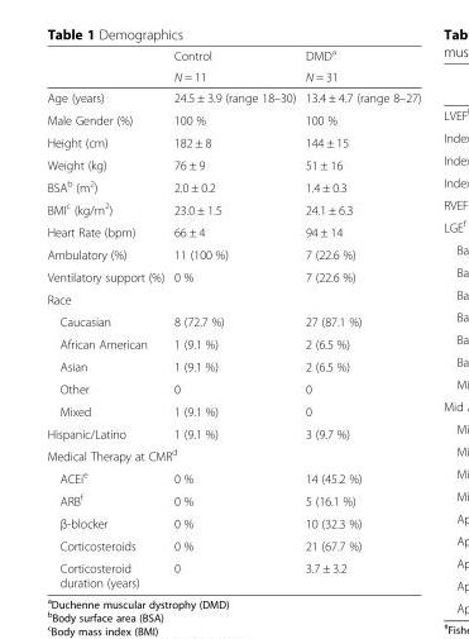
<table><thead><tr><td rowspan="2"></td><td rowspan="2">Control N = 11</td><td rowspan="2">DMD<sup>a</sup> N = 31</td></tr><tr></tr></thead><tbody><tr><td>Age (years)</td><td>24.5 ± 3.9 (range 18–30)</td><td>13.4 ± 4.7 (range 8–27)</td></tr><tr><td>Male Gender (%)</td><td>100 %</td><td>100 %</td></tr><tr><td>Height (cm)</td><td>182 ± 8</td><td>144 ± 15</td></tr><tr><td>Weight (kg)</td><td>76 ± 9</td><td>51 ± 16</td></tr><tr><td>BSA<sup>b</sup> (m<sup>2</sup>)</td><td>2.0 ± 0.2</td><td>1.4 ± 0.3</td></tr><tr><td>BMI<sup>c</sup> (kg/m<sup>2</sup>)</td><td>23.0 ± 1.5</td><td>24.1 ± 6.3</td></tr><tr><td>Heart Rate (bpm)</td><td>66 ± 4</td><td>94 ± 14</td></tr><tr><td>Ambulatory (%)</td><td>11 (100 %)</td><td>7 (22.6 %)</td></tr><tr><td>Ventilatory support (%)</td><td>0 %</td><td>7 (22.6 %)</td></tr><tr><td colspan="3">Race</td></tr><tr><td>Caucasian</td><td>8 (72.7 %)</td><td>27 (87.1 %)</td></tr><tr><td>African American</td><td>1 (9.1 %)</td><td>2 (6.5 %)</td></tr><tr><td>Asian</td><td>1 (9.1 %)</td><td>2 (6.5 %)</td></tr><tr><td>Other</td><td>0</td><td>0</td></tr><tr><td>Mixed</td><td>1 (9.1 %)</td><td>0</td></tr><tr><td>Hispanic/Latino</td><td>1 (9.1 %)</td><td>3 (9.7 %)</td></tr><tr><td colspan="3">Medical Therapy at CMR<sup>d</sup></td></tr><tr><td>ACEi<sup>e</sup></td><td>0 %</td><td>14 (45.2 %)</td></tr><tr><td>ARB<sup>f</sup></td><td>0 %</td><td>5 (16.1 %)</td></tr><tr><td>β-blocker</td><td>0 %</td><td>10 (32.3 %)</td></tr><tr><td>Corticosteroids</td><td>0 %</td><td>21 (67.7 %)</td></tr><tr><td>Corticosteroid duration (years)</td><td>0</td><td>3.7 ± 3.2</td></tr></tbody></table>